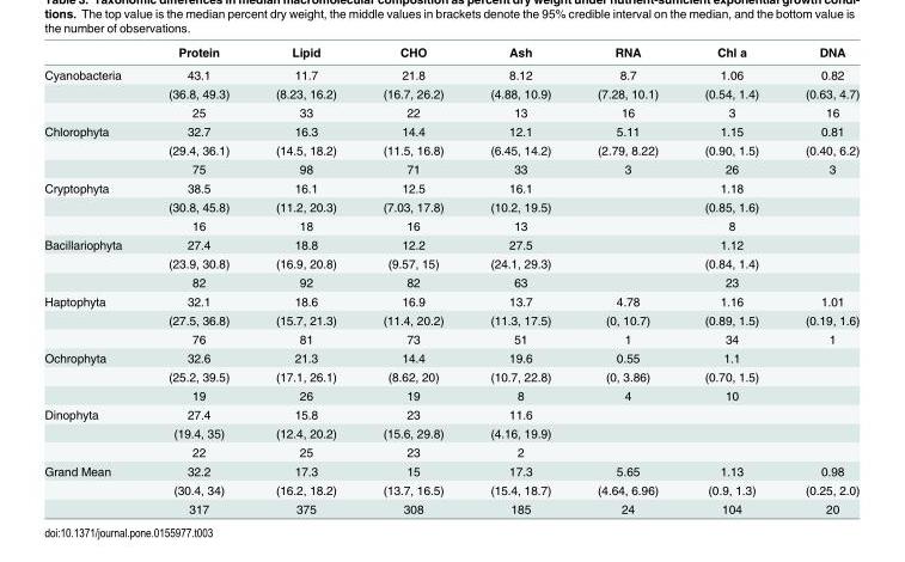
<table><thead><tr><td></td><td>Protein</td><td>Lipid</td><td>CHO</td><td>Ash</td><td>RNA</td><td>Chl a</td><td>DNA</td></tr></thead><tbody><tr><td rowspan="3">Cyanobacteria</td><td>43.1</td><td>11.7</td><td>21.8</td><td>8.12</td><td>8.7</td><td>1.06</td><td>0.82</td></tr><tr><td>(36.8, 49.3)</td><td>(8.23, 16.2)</td><td>(16.7, 26.2)</td><td>(4.88, 10.9)</td><td>(7.28, 10.1)</td><td>(0.54, 1.4)</td><td>(0.63, 4.7)</td></tr><tr><td>25</td><td>33</td><td>22</td><td>13</td><td>16</td><td>3</td><td>16</td></tr><tr><td rowspan="3">Chlorophyta</td><td>32.7</td><td>16.3</td><td>14.4</td><td>12.1</td><td>5.11</td><td>1.15</td><td>0.81</td></tr><tr><td>(29.4, 36.1)</td><td>(14.5, 18.2)</td><td>(11.5, 16.8)</td><td>(6.45, 14.2)</td><td>(2.79, 8.22)</td><td>(0.90, 1.5)</td><td>(0.40, 6.2)</td></tr><tr><td>75</td><td>98</td><td>71</td><td>33</td><td>3</td><td>26</td><td>3</td></tr><tr><td rowspan="3">Cryptophyta</td><td>38.5</td><td>16.1</td><td>12.5</td><td>16.1</td><td></td><td>1.18</td><td></td></tr><tr><td>(30.8, 45.8)</td><td>(11.2, 20.3)</td><td>(7.03, 17.8)</td><td>(10.2, 19.5)</td><td></td><td>(0.85, 1.6)</td><td></td></tr><tr><td>16</td><td>18</td><td>16</td><td>13</td><td></td><td>8</td><td></td></tr><tr><td rowspan="3">Bacillariophyta</td><td>27.4</td><td>18.8</td><td>12.2</td><td>27.5</td><td></td><td>1.12</td><td></td></tr><tr><td>(23.9, 30.8)</td><td>(16.9, 20.8)</td><td>(9.57, 15)</td><td>(24.1, 29.3)</td><td></td><td>(0.84, 1.4)</td><td></td></tr><tr><td>82</td><td>92</td><td>82</td><td>63</td><td></td><td>23</td><td></td></tr><tr><td rowspan="3">Haptophyta</td><td>32.1</td><td>18.6</td><td>16.9</td><td>13.7</td><td>4.78</td><td>1.16</td><td>1.01</td></tr><tr><td>(27.5, 36.8)</td><td>(15.7, 21.3)</td><td>(11.4, 20.2)</td><td>(11.3, 17.5)</td><td>(0, 10.7)</td><td>(0.89, 1.5)</td><td>(0.19, 1.6)</td></tr><tr><td>76</td><td>81</td><td>73</td><td>51</td><td>1</td><td>34</td><td>1</td></tr><tr><td rowspan="3">Ochrophyta</td><td>32.6</td><td>21.3</td><td>14.4</td><td>19.6</td><td>0.55</td><td>1.1</td><td></td></tr><tr><td>(25.2, 39.5)</td><td>(17.1, 26.1)</td><td>(8.62, 20)</td><td>(10.7, 22.8)</td><td>(0, 3.86)</td><td>(0.70, 1.5)</td><td></td></tr><tr><td>19</td><td>26</td><td>19</td><td>8</td><td>4</td><td>10</td><td></td></tr><tr><td rowspan="3">Dinophyta</td><td>27.4</td><td>15.8</td><td>23</td><td>11.6</td><td></td><td></td><td></td></tr><tr><td>(19.4, 35)</td><td>(12.4, 20.2)</td><td>(15.6, 29.8)</td><td>(4.16, 19.9)</td><td></td><td></td><td></td></tr><tr><td>22</td><td>25</td><td>23</td><td>2</td><td></td><td></td><td></td></tr><tr><td rowspan="3">Grand Mean</td><td>32.2</td><td>17.3</td><td>15</td><td>17.3</td><td>5.65</td><td>1.13</td><td>0.98</td></tr><tr><td>(30.4, 34)</td><td>(16.2, 18.2)</td><td>(13.7, 16.5)</td><td>(15.4, 18.7)</td><td>(4.64, 6.96)</td><td>(0.9, 1.3)</td><td>(0.25, 2.0)</td></tr><tr><td>317</td><td>375</td><td>308</td><td>185</td><td>24</td><td>104</td><td>20</td></tr></tbody></table>